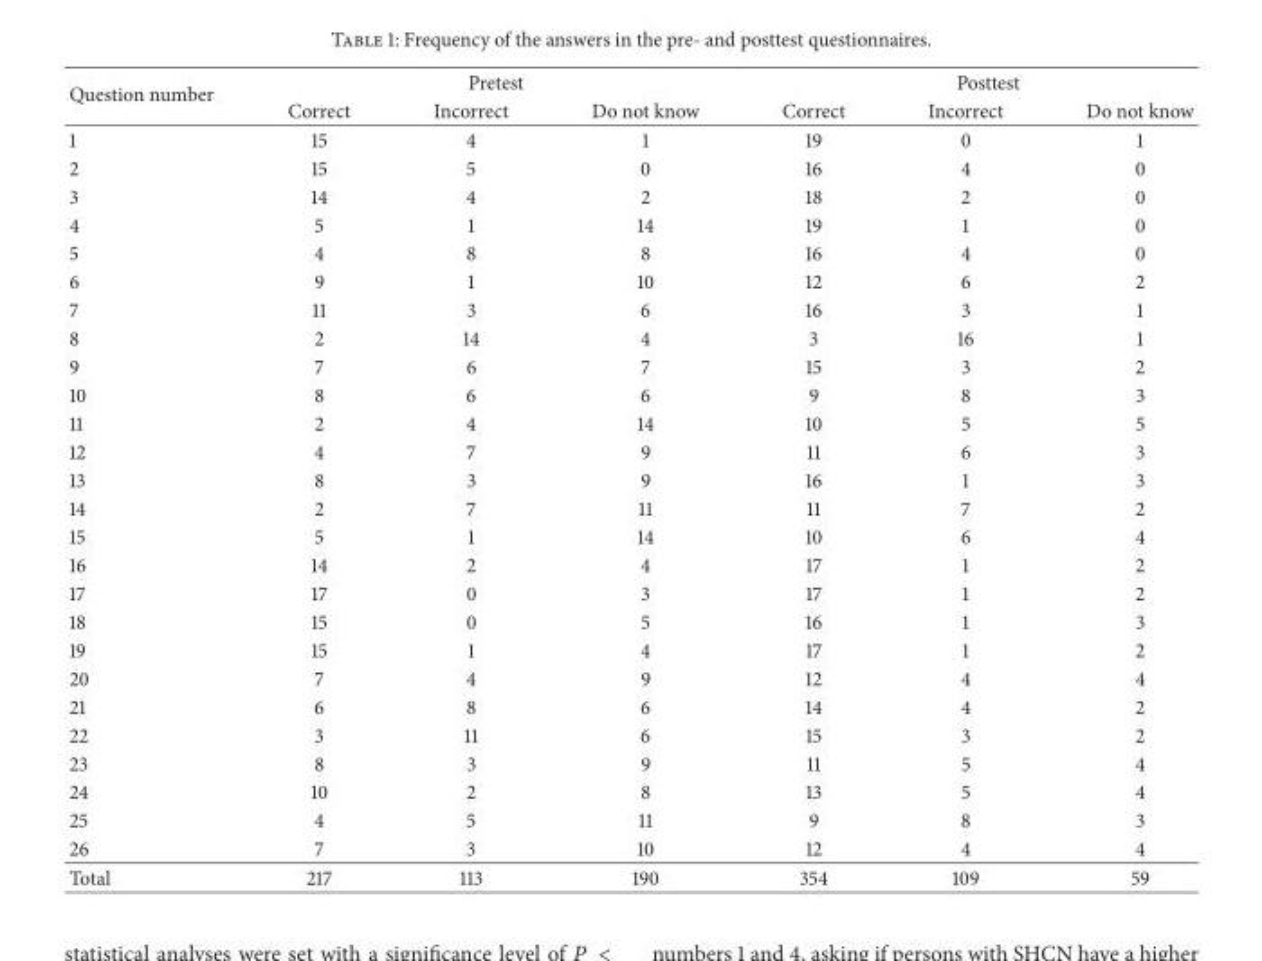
<table><thead><tr><td rowspan="2">Question number</td><td colspan="3">Pretest</td><td colspan="3">Posttest</td></tr><tr><td>Correct</td><td>Incorrect</td><td>Do not know</td><td>Correct</td><td>Incorrect</td><td>Do not know</td></tr></thead><tbody><tr><td>1</td><td>15</td><td>4</td><td>1</td><td>19</td><td>0</td><td>1</td></tr><tr><td>2</td><td>15</td><td>5</td><td>0</td><td>16</td><td>4</td><td>0</td></tr><tr><td>3</td><td>14</td><td>4</td><td>2</td><td>18</td><td>2</td><td>0</td></tr><tr><td>4</td><td>5</td><td>1</td><td>14</td><td>19</td><td>1</td><td>0</td></tr><tr><td>5</td><td>4</td><td>8</td><td>8</td><td>16</td><td>4</td><td>0</td></tr><tr><td>6</td><td>9</td><td>1</td><td>10</td><td>12</td><td>6</td><td>2</td></tr><tr><td>7</td><td>11</td><td>3</td><td>6</td><td>16</td><td>3</td><td>1</td></tr><tr><td>8</td><td>2</td><td>14</td><td>4</td><td>3</td><td>16</td><td>1</td></tr><tr><td>9</td><td>7</td><td>6</td><td>7</td><td>15</td><td>3</td><td>2</td></tr><tr><td>10</td><td>8</td><td>6</td><td>6</td><td>9</td><td>8</td><td>3</td></tr><tr><td>11</td><td>2</td><td>4</td><td>14</td><td>10</td><td>5</td><td>5</td></tr><tr><td>12</td><td>4</td><td>7</td><td>9</td><td>11</td><td>6</td><td>3</td></tr><tr><td>13</td><td>8</td><td>3</td><td>9</td><td>16</td><td>1</td><td>3</td></tr><tr><td>14</td><td>2</td><td>7</td><td>11</td><td>11</td><td>7</td><td>2</td></tr><tr><td>15</td><td>5</td><td>1</td><td>14</td><td>10</td><td>6</td><td>4</td></tr><tr><td>16</td><td>14</td><td>2</td><td>4</td><td>17</td><td>1</td><td>2</td></tr><tr><td>17</td><td>17</td><td>0</td><td>3</td><td>17</td><td>1</td><td>2</td></tr><tr><td>18</td><td>15</td><td>0</td><td>5</td><td>16</td><td>1</td><td>3</td></tr><tr><td>19</td><td>15</td><td>1</td><td>4</td><td>17</td><td>1</td><td>2</td></tr><tr><td>20</td><td>7</td><td>4</td><td>9</td><td>12</td><td>4</td><td>4</td></tr><tr><td>21</td><td>6</td><td>8</td><td>6</td><td>14</td><td>4</td><td>2</td></tr><tr><td>22</td><td>3</td><td>11</td><td>6</td><td>15</td><td>3</td><td>2</td></tr><tr><td>23</td><td>8</td><td>3</td><td>9</td><td>11</td><td>5</td><td>4</td></tr><tr><td>24</td><td>10</td><td>2</td><td>8</td><td>13</td><td>5</td><td>4</td></tr><tr><td>25</td><td>4</td><td>5</td><td>11</td><td>9</td><td>8</td><td>3</td></tr><tr><td>26</td><td>7</td><td>3</td><td>10</td><td>12</td><td>4</td><td>4</td></tr><tr><td>Total</td><td>217</td><td>113</td><td>190</td><td>354</td><td>109</td><td>59</td></tr></tbody></table>